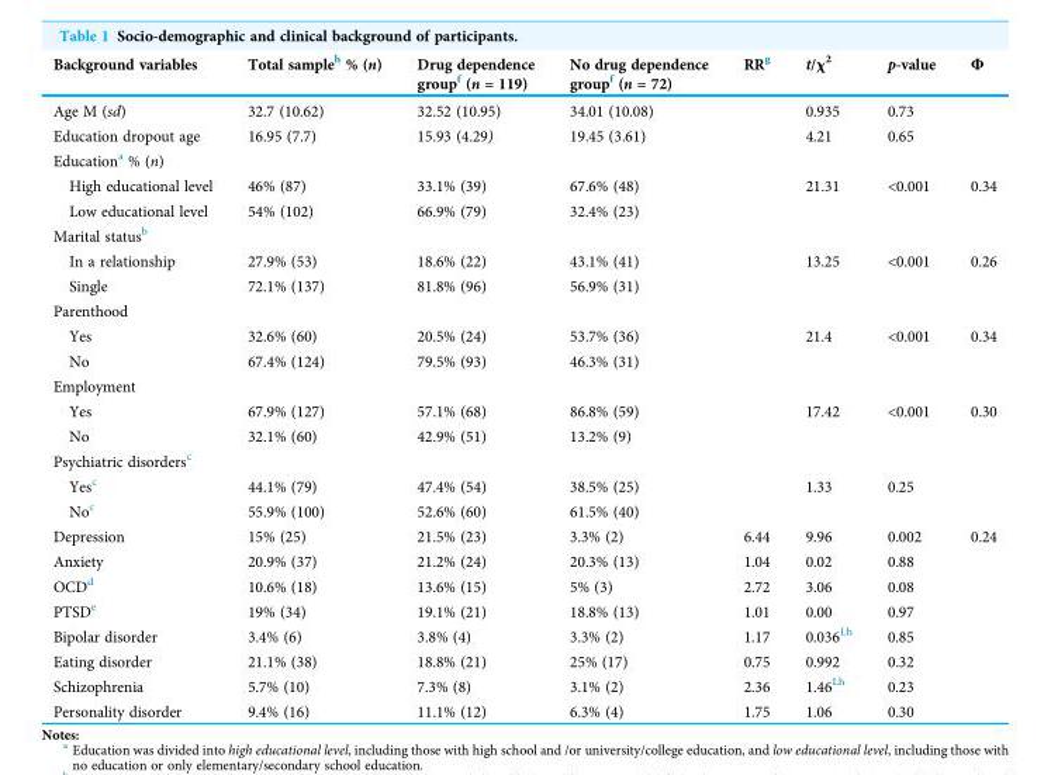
<table><thead><tr><td>Background variables</td><td>Total sample<sup>h</sup> % (n)</td><td>Drug dependence group<sup>f</sup> (n = 119)</td><td>No drug dependence group<sup>f</sup> (n = 72)</td><td>RR<sup>g</sup></td><td>t/χ<sup>2</sup></td><td>p-value</td><td>Φ</td></tr></thead><tbody><tr><td>Age M (sd)</td><td>32.7 (10.62)</td><td>32.52 (10.95)</td><td>34.01 (10.08)</td><td></td><td>0.935</td><td>0.73</td><td></td></tr><tr><td>Education dropout age</td><td>16.95 (7.7)</td><td>15.93 (4.29)</td><td>19.45 (3.61)</td><td></td><td>4.21</td><td>0.65</td><td></td></tr><tr><td colspan="8">Education<sup>a</sup> % (n)</td></tr><tr><td>High educational level</td><td>46% (87)</td><td>33.1% (39)</td><td>67.6% (48)</td><td></td><td rowspan="2">21.31</td><td rowspan="2">&lt;0.001</td><td rowspan="2">0.34</td></tr><tr><td>Low educational level</td><td>54% (102)</td><td>66.9% (79)</td><td>32.4% (23)</td><td></td></tr><tr><td colspan="8">Marital status<sup>b</sup></td></tr><tr><td>In a relationship</td><td>27.9% (53)</td><td>18.6% (22)</td><td>43.1% (41)</td><td></td><td rowspan="2">13.25</td><td rowspan="2">&lt;0.001</td><td rowspan="2">0.26</td></tr><tr><td>Single</td><td>72.1% (137)</td><td>81.8% (96)</td><td>56.9% (31)</td><td></td></tr><tr><td colspan="8">Parenthood</td></tr><tr><td>Yes</td><td>32.6% (60)</td><td>20.5% (24)</td><td>53.7% (36)</td><td></td><td rowspan="2">21.4</td><td rowspan="2">&lt;0.001</td><td rowspan="2">0.34</td></tr><tr><td>No</td><td>67.4% (124)</td><td>79.5% (93)</td><td>46.3% (31)</td><td></td></tr><tr><td colspan="8">Employment</td></tr><tr><td>Yes</td><td>67.9% (127)</td><td>57.1% (68)</td><td>86.8% (59)</td><td></td><td rowspan="2">17.42</td><td rowspan="2">&lt;0.001</td><td rowspan="2">0.30</td></tr><tr><td>No</td><td>32.1% (60)</td><td>42.9% (51)</td><td>13.2% (9)</td><td></td></tr><tr><td colspan="8">Psychiatric disorders<sup>c</sup></td></tr><tr><td>Yes<sup>c</sup></td><td>44.1% (79)</td><td>47.4% (54)</td><td>38.5% (25)</td><td></td><td rowspan="2">1.33</td><td rowspan="2">0.25</td><td></td></tr><tr><td>No<sup>c</sup></td><td>55.9% (100)</td><td>52.6% (60)</td><td>61.5% (40)</td><td></td><td></td></tr><tr><td>Depression</td><td>15% (25)</td><td>21.5% (23)</td><td>3.3% (2)</td><td>6.44</td><td>9.96</td><td>0.002</td><td>0.24</td></tr><tr><td>Anxiety</td><td>20.9% (37)</td><td>21.2% (24)</td><td>20.3% (13)</td><td>1.04</td><td>0.02</td><td>0.88</td><td></td></tr><tr><td>OCD<sup>d</sup></td><td>10.6% (18)</td><td>13.6% (15)</td><td>5% (3)</td><td>2.72</td><td>3.06</td><td>0.08</td><td></td></tr><tr><td>PTSD<sup>e</sup></td><td>19% (34)</td><td>19.1% (21)</td><td>18.8% (13)</td><td>1.01</td><td>0.00</td><td>0.97</td><td></td></tr><tr><td>Bipolar disorder</td><td>3.4% (6)</td><td>3.8% (4)</td><td>3.3% (2)</td><td>1.17</td><td>0.036<sup>Lh</sup></td><td>0.85</td><td></td></tr><tr><td>Eating disorder</td><td>21.1% (38)</td><td>18.8% (21)</td><td>25% (17)</td><td>0.75</td><td>0.992</td><td>0.32</td><td></td></tr><tr><td>Schizophrenia</td><td>5.7% (10)</td><td>7.3% (8)</td><td>3.1% (2)</td><td>2.36</td><td>1.46<sup>Lh</sup></td><td>0.23</td><td></td></tr><tr><td>Personality disorder</td><td>9.4% (16)</td><td>11.1% (12)</td><td>6.3% (4)</td><td>1.75</td><td>1.06</td><td>0.30</td><td></td></tr></tbody></table>